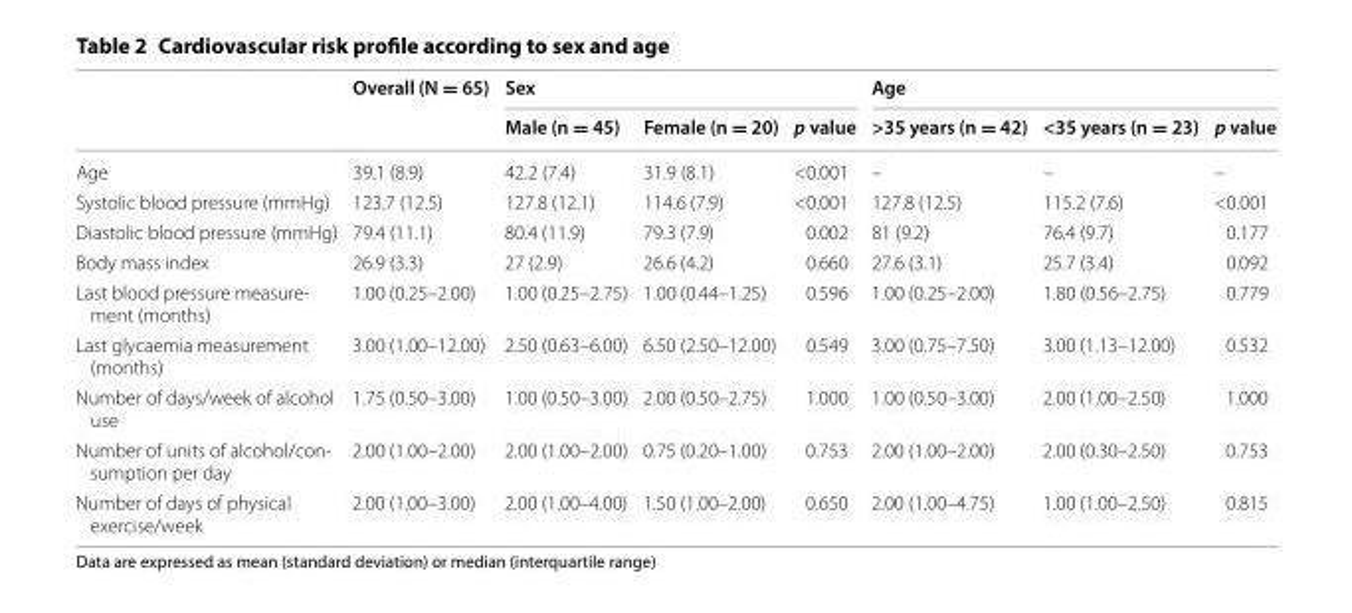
<table><thead><tr><td rowspan="2"></td><td rowspan="2">Overall (N = 65)</td><td colspan="3">Sex</td><td colspan="3">Age</td></tr><tr><td>Male (n = 45)</td><td>Female (n = 20)</td><td>p value</td><td>&gt;35 years (n = 42)</td><td>&lt;35 years (n = 23)</td><td>p value</td></tr></thead><tbody><tr><td>Age</td><td>39.1 (8.9)</td><td>42.2 (7.4)</td><td>31.9 (8.1)</td><td>&lt;0.001</td><td>–</td><td>–</td><td>–</td></tr><tr><td>Systolic blood pressure (mmHg)</td><td>123.7 (12.5)</td><td>127.8 (12.1)</td><td>114.6 (7.9)</td><td>&lt;0.001</td><td>127.8 (12.5)</td><td>115.2 (7.6)</td><td>&lt;0.001</td></tr><tr><td>Diastolic blood pressure (mmHg)</td><td>79.4 (11.1)</td><td>80.4 (11.9)</td><td>79.3 (7.9)</td><td>0.002</td><td>81 (9.2)</td><td>76.4 (9.7)</td><td>0.177</td></tr><tr><td>Body mass index</td><td>26.9 (3.3)</td><td>27 (2.9)</td><td>26.6 (4.2)</td><td>0.660</td><td>27.6 (3.1)</td><td>25.7 (3.4)</td><td>0.092</td></tr><tr><td>Last blood pressure measure- ment (months)</td><td>1.00 (0.25–2.00)</td><td>1.00 (0.25–2.75)</td><td>1.00 (0.44–1.25)</td><td>0.596</td><td>1.00 (0.25–2.00)</td><td>1.80 (0.56–2.75)</td><td>0.779</td></tr><tr><td>Last glycaemia measurement (months)</td><td>3.00 (1.00–12.00)</td><td>2.50 (0.63–6.00)</td><td>6.50 (2.50–12.00)</td><td>0.549</td><td>3.00 (0.75–7.50)</td><td>3.00 (1.13–12.00)</td><td>0.532</td></tr><tr><td>Number of days/week of alcohol use</td><td>1.75 (0.50–3.00)</td><td>1.00 (0.50–3.00)</td><td>2.00 (0.50–2.75)</td><td>1.000</td><td>1.00 (0.50–3.00)</td><td>2.00 (1.00–2.50)</td><td>1.000</td></tr><tr><td>Number of units of alcohol/con- sumption per day</td><td>2.00 (1.00–2.00)</td><td>2.00 (1.00–2.00)</td><td>0.75 (0.20–1.00)</td><td>0.753</td><td>2.00 (1.00–2.00)</td><td>2.00 (0.30–2.50)</td><td>0.753</td></tr><tr><td>Number of days of physical exercise/week</td><td>2.00 (1.00–3.00)</td><td>2.00 (1.00–4.00)</td><td>1.50 (1.00–2.00)</td><td>0.650</td><td>2.00 (1.00–4.75)</td><td>1.00 (1.00–2.50)</td><td>0.815</td></tr></tbody></table>